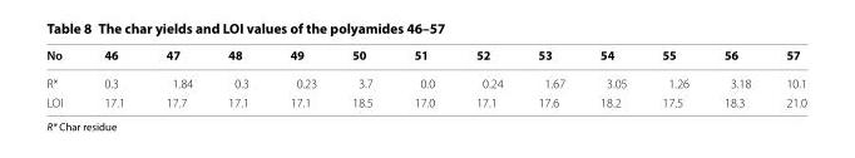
<table><thead><tr><td>No</td><td>46</td><td>47</td><td>48</td><td>49</td><td>50</td><td>51</td><td>52</td><td>53</td><td>54</td><td>55</td><td>56</td><td>57</td></tr></thead><tbody><tr><td>R*</td><td>0.3</td><td>1.84</td><td>0.3</td><td>0.23</td><td>3.7</td><td>0.0</td><td>0.24</td><td>1.67</td><td>3.05</td><td>1.26</td><td>3.18</td><td>10.1</td></tr><tr><td>LOI</td><td>17.1</td><td>17.7</td><td>17.1</td><td>17.1</td><td>18.5</td><td>17.0</td><td>17.1</td><td>17.6</td><td>18.2</td><td>17.5</td><td>18.3</td><td>21.0</td></tr></tbody></table>